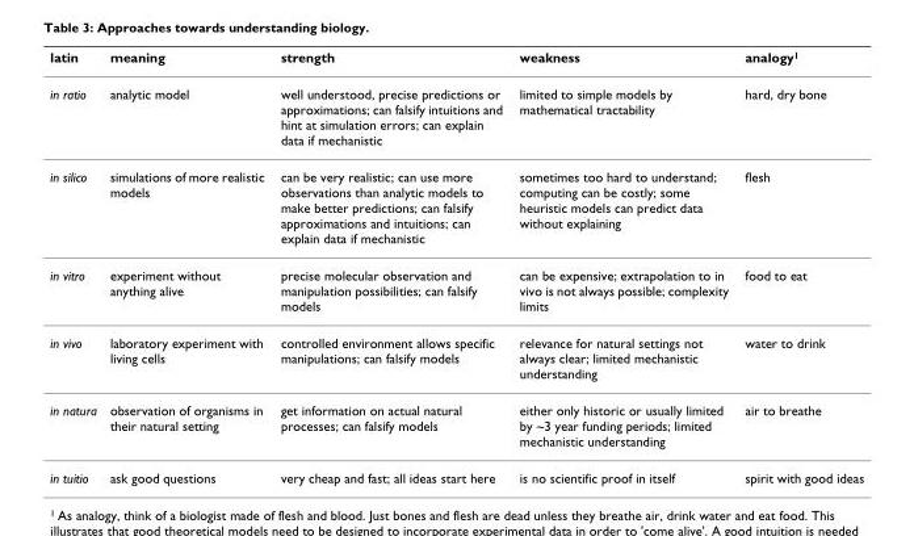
<table><thead><tr><td>latin</td><td>meaning</td><td>strength</td><td>weakness</td><td>analogy<sup>1</sup></td></tr></thead><tbody><tr><td>in ratio</td><td>analytic model</td><td>well understood, precise predictions or approximations; can falsify intuitions and hint at simulation errors; can explain data if mechanistic</td><td>limited to simple models by mathematical tractability</td><td>hard, dry bone</td></tr><tr><td>in silico</td><td>simulations of more realistic models</td><td>can be very realistic; can use more observations than analytic models to make better predictions; can falsify approximations and intuitions; can explain data if mechanistic</td><td>sometimes too hard to understand; computing can be costly; some heuristic models can predict data without explaining</td><td>flesh</td></tr><tr><td>in vitro</td><td>experiment without anything alive</td><td>precise molecular observation and manipulation possibilities; can falsify models</td><td>can be expensive; extrapolation to in vivo is not always possible; complexity limits</td><td>food to eat</td></tr><tr><td>in vivo</td><td>laboratory experiment with living cells</td><td>controlled environment allows specific manipulations; can falsify models</td><td>relevance for natural settings not always clear; limited mechanistic understanding</td><td>water to drink</td></tr><tr><td>in natura</td><td>observation of organisms in their natural setting</td><td>get information on actual natural processes; can falsify models</td><td>either only historic or usually limited by ~3 year funding periods; limited mechanistic understanding</td><td>air to breathe</td></tr><tr><td>in tuitio</td><td>ask good questions</td><td>very cheap and fast; all ideas start here</td><td>is no scientific proof in itself</td><td>spirit with good ideas</td></tr></tbody></table>